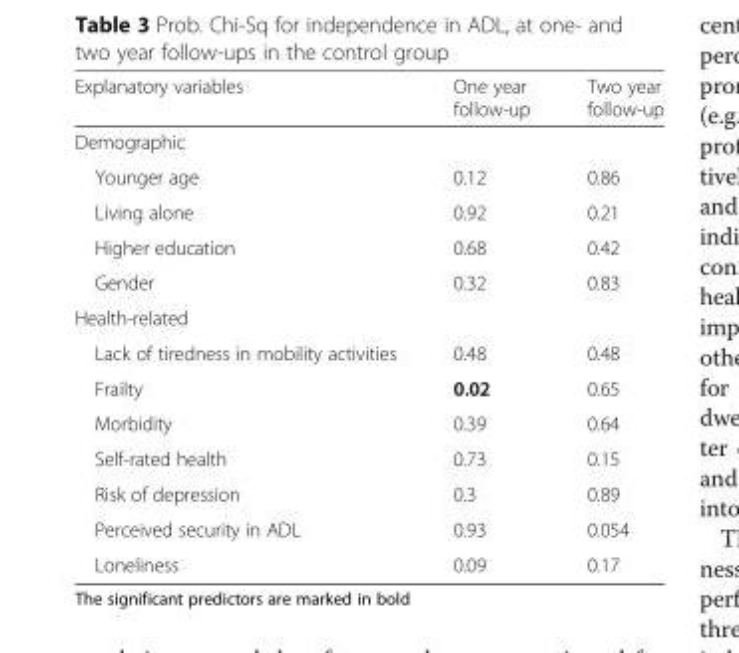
<table><thead><tr><td>Explanatory variables</td><td>One year follow-up</td><td>Two year follow-up</td></tr></thead><tbody><tr><td colspan="3">Demographic</td></tr><tr><td>Younger age</td><td>0.12</td><td>0.86</td></tr><tr><td>Living alone</td><td>0.92</td><td>0.21</td></tr><tr><td>Higher education</td><td>0.68</td><td>0.42</td></tr><tr><td>Gender</td><td>0.32</td><td>0.83</td></tr><tr><td colspan="3">Health-related</td></tr><tr><td>Lack of tiredness in mobility activities</td><td>0.48</td><td>0.48</td></tr><tr><td>Frailty</td><td>0.02</td><td>0.65</td></tr><tr><td>Morbidity</td><td>0.39</td><td>0.64</td></tr><tr><td>Self-rated health</td><td>0.73</td><td>0.15</td></tr><tr><td>Risk of depression</td><td>0.3</td><td>0.89</td></tr><tr><td>Perceived security in ADL</td><td>0.93</td><td>0.054</td></tr><tr><td>Loneliness</td><td>0.09</td><td>0.17</td></tr></tbody></table>